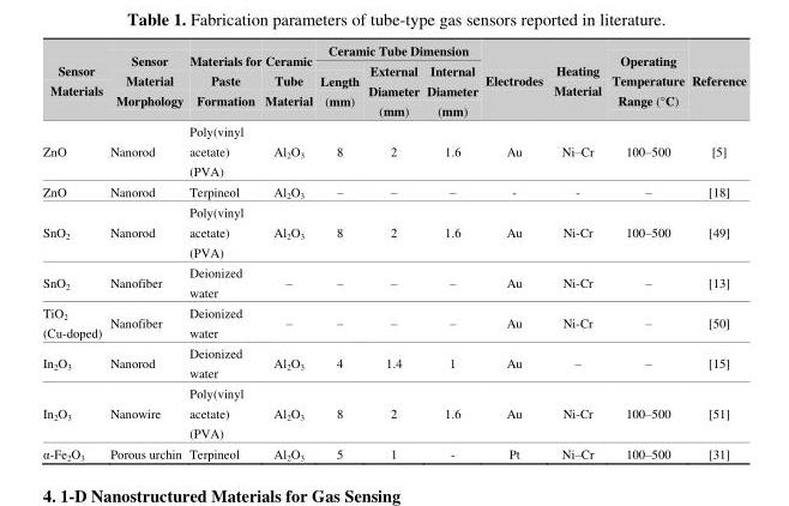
<table><thead><tr><td rowspan="2">Sensor Materials</td><td rowspan="2">Sensor Material Morphology</td><td rowspan="2">Materials for Paste Formation</td><td rowspan="2">Ceramic Tube Material</td><td colspan="3">Ceramic Tube Dimension</td><td rowspan="2">Electrodes</td><td rowspan="2">Heating Material</td><td rowspan="2">Operating Temperature Range (°C)</td><td rowspan="2">Reference</td></tr><tr><td>Length (mm)</td><td>External Diameter (mm)</td><td>Internal Diameter (mm)</td></tr></thead><tbody><tr><td>ZnO</td><td>Nanorod</td><td>Poly(vinyl acetate) (PVA)</td><td>Al<sub>2</sub>O<sub>3</sub></td><td>8</td><td>2</td><td>1.6</td><td>Au</td><td>Ni–Cr</td><td>100–500</td><td>[5]</td></tr><tr><td>ZnO</td><td>Nanorod</td><td>Terpineol</td><td>Al<sub>2</sub>O<sub>3</sub></td><td>–</td><td>–</td><td>–</td><td>-</td><td>-</td><td>–</td><td>[18]</td></tr><tr><td>SnO<sub>2</sub></td><td>Nanorod</td><td>Poly(vinyl acetate) (PVA)</td><td>Al<sub>2</sub>O<sub>3</sub></td><td>8</td><td>2</td><td>1.6</td><td>Au</td><td>Ni-Cr</td><td>100–500</td><td>[49]</td></tr><tr><td>SnO<sub>2</sub></td><td>Nanofiber</td><td>Deionized water</td><td>–</td><td>–</td><td>–</td><td>–</td><td>Au</td><td>Ni-Cr</td><td>–</td><td>[13]</td></tr><tr><td>TiO<sub>2</sub> (Cu-doped)</td><td>Nanofiber</td><td>Deionized water</td><td>–</td><td>–</td><td>–</td><td>–</td><td>Au</td><td>Ni-Cr</td><td>–</td><td>[50]</td></tr><tr><td>In<sub>2</sub>O<sub>3</sub></td><td>Nanorod</td><td>Deionized water</td><td>Al<sub>2</sub>O<sub>3</sub></td><td>4</td><td>1.4</td><td>1</td><td>Au</td><td>–</td><td>–</td><td>[15]</td></tr><tr><td>In<sub>2</sub>O<sub>3</sub></td><td>Nanowire</td><td>Poly(vinyl acetate) (PVA)</td><td>Al<sub>2</sub>O<sub>3</sub></td><td>8</td><td>2</td><td>1.6</td><td>Au</td><td>Ni-Cr</td><td>100–500</td><td>[51]</td></tr><tr><td>α-Fe<sub>2</sub>O<sub>3</sub></td><td>Porous urchin</td><td>Terpineol</td><td>Al<sub>2</sub>O<sub>3</sub></td><td>5</td><td>1</td><td>-</td><td>Pt</td><td>Ni–Cr</td><td>100–500</td><td>[31]</td></tr></tbody></table>